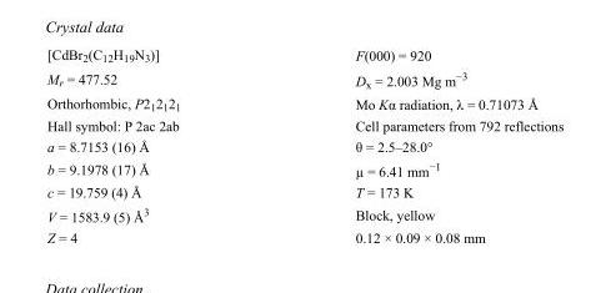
<table><tbody><tr><td>[CdBr<sub>2</sub>(C<sub>12</sub>H<sub>19</sub>N<sub>3</sub>)]</td><td>F(000) = 920</td></tr><tr><td>M<sub>r</sub> = 477.52</td><td>D<sub>x</sub> = 2.003 Mg m<sup>−3</sup></td></tr><tr><td>Orthorhombic, P2<sub>1</sub>2<sub>1</sub>2<sub>1</sub></td><td>Mo Kα radiation, λ = 0.71073 Å</td></tr><tr><td>Hall symbol: P 2ac 2ab</td><td>Cell parameters from 792 reflections</td></tr><tr><td>a = 8.7153 (16) Å</td><td>θ = 2.5–28.0°</td></tr><tr><td>b = 9.1978 (17) Å</td><td>µ = 6.41 mm<sup>−1</sup></td></tr><tr><td>c = 19.759 (4) Å</td><td>T = 173 K</td></tr><tr><td>V = 1583.9 (5) Å<sup>3</sup></td><td>Block, yellow</td></tr><tr><td>Z = 4</td><td>0.12 × 0.09 × 0.08 mm</td></tr></tbody></table>